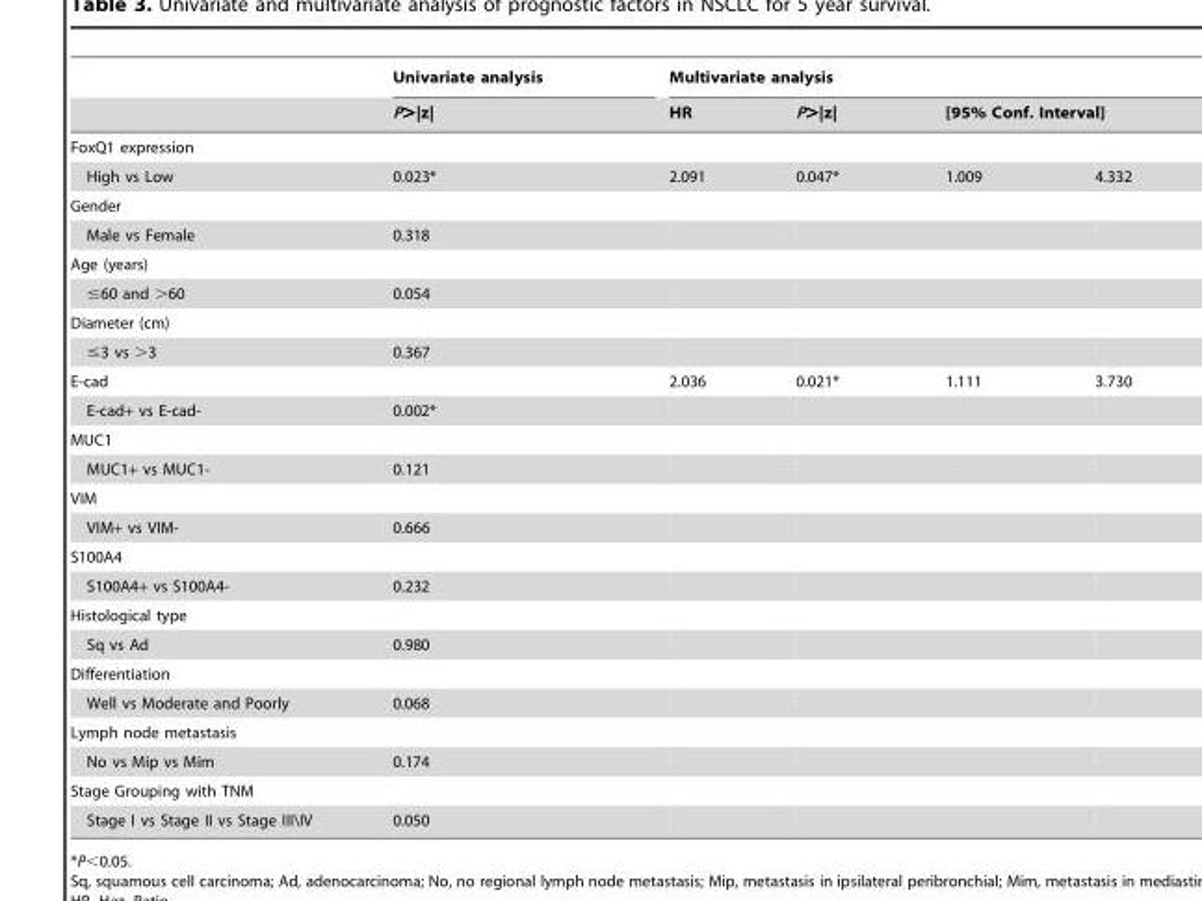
<table><thead><tr><td rowspan="2"></td><td rowspan="2">Univariate analysis P&gt;|z|</td><td colspan="4">Multivariate analysis</td></tr><tr><td>HR</td><td>P&gt;|z|</td><td colspan="2">[95% Conf. Interval]</td></tr><tr><td colspan="6">FoxQ1 expression</td></tr><tr><td>High vs Low</td><td>0.023*</td><td>2.091</td><td>0.047*</td><td>1.009</td><td>4.332</td></tr></thead><tbody><tr><td colspan="6">Gender</td></tr><tr><td>Male vs Female</td><td>0.318</td><td></td><td></td><td></td><td></td></tr><tr><td colspan="6">Age (years)</td></tr><tr><td>≤60 and &gt;60</td><td>0.054</td><td></td><td></td><td></td><td></td></tr><tr><td colspan="6">Diameter (cm)</td></tr><tr><td>≤3 vs &gt;3</td><td>0.367</td><td></td><td></td><td></td><td></td></tr><tr><td>E-cad</td><td></td><td>2.036</td><td>0.021*</td><td>1.111</td><td>3.730</td></tr><tr><td>E-cad+ vs E-cad-</td><td>0.002*</td><td></td><td></td><td></td><td></td></tr><tr><td colspan="6">MUC1</td></tr><tr><td>MUC1+ vs MUC1-</td><td>0.121</td><td></td><td></td><td></td><td></td></tr><tr><td colspan="6">VIM</td></tr><tr><td>VIM+ vs VIM-</td><td>0.666</td><td></td><td></td><td></td><td></td></tr><tr><td colspan="6">S100A4</td></tr><tr><td>S100A4+ vs S100A4-</td><td>0.232</td><td></td><td></td><td></td><td></td></tr><tr><td colspan="6">Histological type</td></tr><tr><td>Sq vs Ad</td><td>0.980</td><td></td><td></td><td></td><td></td></tr><tr><td colspan="6">Differentiation</td></tr><tr><td>Well vs Moderate and Poorly</td><td>0.068</td><td></td><td></td><td></td><td></td></tr><tr><td colspan="6">Lymph node metastasis</td></tr><tr><td>No vs Mip vs Mim</td><td>0.174</td><td></td><td></td><td></td><td></td></tr><tr><td colspan="6">Stage Grouping with TNM</td></tr><tr><td>Stage I vs Stage II vs Stage III\IV</td><td>0.050</td><td></td><td></td><td></td><td></td></tr></tbody></table>